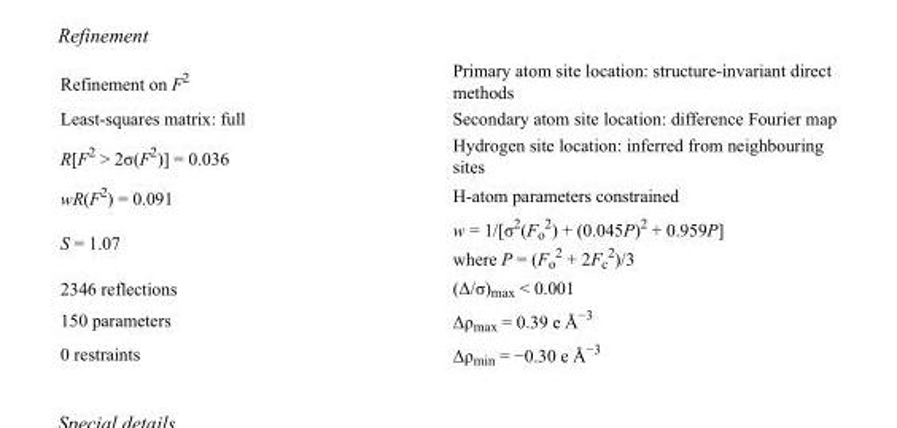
<table><tbody><tr><td>Refinement on F<sup>2</sup></td><td>Primary atom site location: structure-invariant direct methods</td></tr><tr><td>Least-squares matrix: full</td><td>Secondary atom site location: difference Fourier map</td></tr><tr><td>R[F<sup>2</sup> &gt; 2σ(F<sup>2</sup>)] = 0.036</td><td>Hydrogen site location: inferred from neighbouring sites</td></tr><tr><td>wR(F<sup>2</sup>) = 0.091</td><td>H-atom parameters constrained</td></tr><tr><td>S = 1.07</td><td>w = 1/[σ<sup>2</sup>(F<sub>o</sub> <sup>2</sup>) + (0.045P)<sup>2</sup> + 0.959P] where P = (F<sub>o</sub> <sup>2</sup> + 2F<sub>c</sub> <sup>2</sup>)/3</td></tr><tr><td>2346 reflections</td><td>(Δ/σ)<sub>max</sub> &lt; 0.001</td></tr><tr><td>150 parameters</td><td>Δρ<sub>max</sub> = 0.39 e Å<sup>−3</sup></td></tr><tr><td>0 restraints</td><td>Δρ<sub>min</sub> = −0.30 e Å<sup>−3</sup></td></tr></tbody></table>